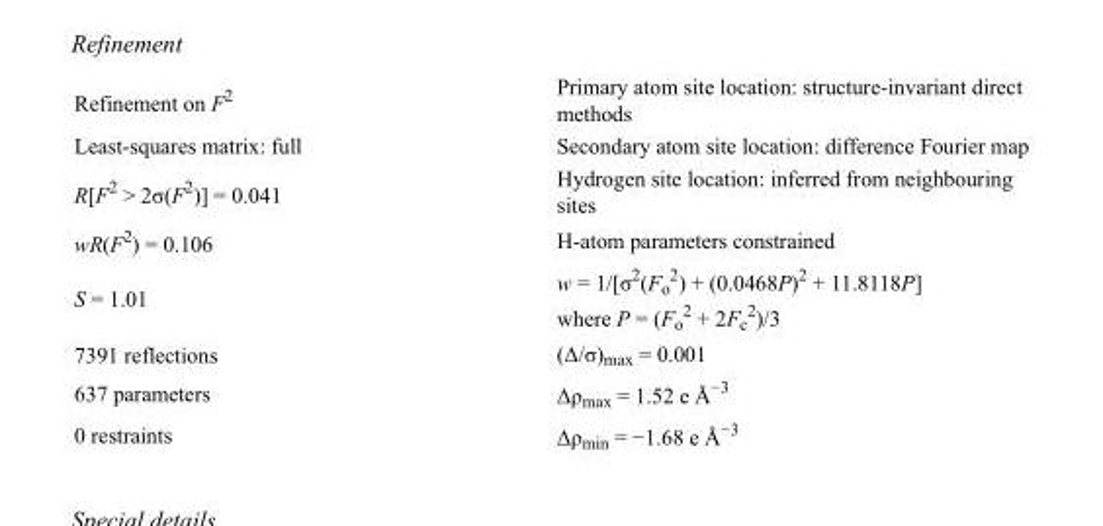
<table><tbody><tr><td>Refinement on F<sup>2</sup></td><td>Primary atom site location: structure-invariant direct methods</td></tr><tr><td>Least-squares matrix: full</td><td>Secondary atom site location: difference Fourier map</td></tr><tr><td>R[F<sup>2</sup> &gt; 2σ(F<sup>2</sup>)] = 0.041</td><td>Hydrogen site location: inferred from neighbouring sites</td></tr><tr><td>wR(F<sup>2</sup>) = 0.106</td><td>H-atom parameters constrained</td></tr><tr><td>S = 1.01</td><td>w = 1/[σ<sup>2</sup>(F<sub>o</sub> <sup>2</sup>) + (0.0468P)<sup>2</sup> + 11.8118P] where P = (F<sub>o</sub> <sup>2</sup> + 2F<sub>c</sub> <sup>2</sup>)/3</td></tr><tr><td>7391 reflections</td><td>(Δ/σ)<sub>max</sub> = 0.001</td></tr><tr><td>637 parameters</td><td>Δρ<sub>max</sub> = 1.52 e Å<sup>−3</sup></td></tr><tr><td>0 restraints</td><td>Δρ<sub>min</sub> = −1.68 e Å<sup>−3</sup></td></tr></tbody></table>